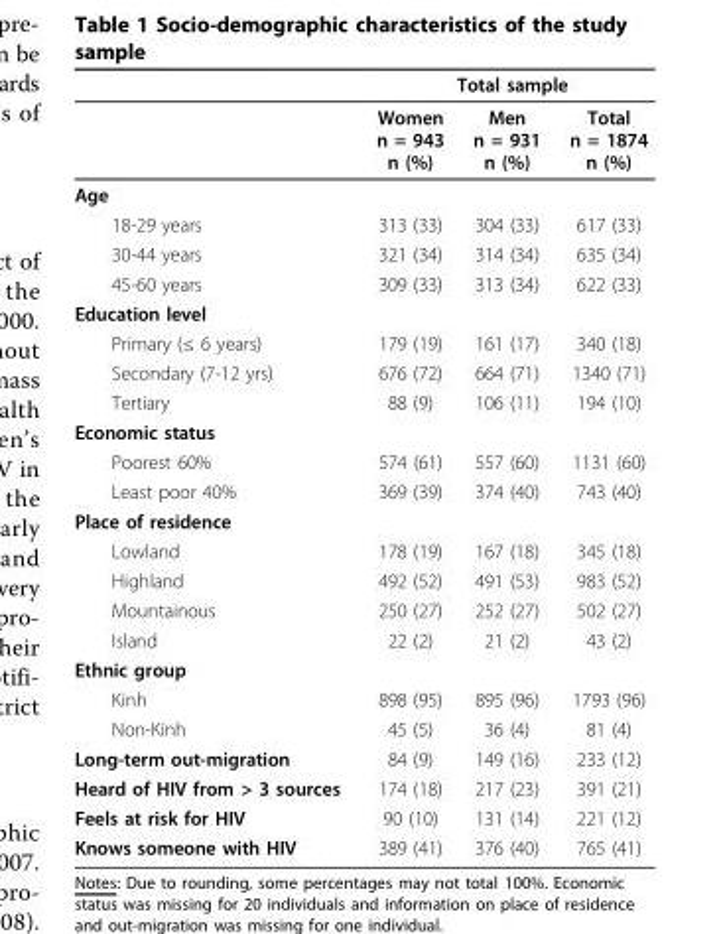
<table><thead><tr><td rowspan="2"></td><td colspan="3">Total sample</td></tr><tr><td>Women n = 943 n (%)</td><td>Men n = 931 n (%)</td><td>Total n = 1874 n (%)</td></tr></thead><tbody><tr><td colspan="4">Age</td></tr><tr><td>18-29 years</td><td>313 (33)</td><td>304 (33)</td><td>617 (33)</td></tr><tr><td>30-44 years</td><td>321 (34)</td><td>314 (34)</td><td>635 (34)</td></tr><tr><td>45-60 years</td><td>309 (33)</td><td>313 (34)</td><td>622 (33)</td></tr><tr><td colspan="4">Education level</td></tr><tr><td>Primary (≤ 6 years)</td><td>179 (19)</td><td>161 (17)</td><td>340 (18)</td></tr><tr><td>Secondary (7-12 yrs)</td><td>676 (72)</td><td>664 (71)</td><td>1340 (71)</td></tr><tr><td>Tertiary</td><td>88 (9)</td><td>106 (11)</td><td>194 (10)</td></tr><tr><td colspan="4">Economic status</td></tr><tr><td>Poorest 60%</td><td>574 (61)</td><td>557 (60)</td><td>1131 (60)</td></tr><tr><td>Least poor 40%</td><td>369 (39)</td><td>374 (40)</td><td>743 (40)</td></tr><tr><td colspan="4">Place of residence</td></tr><tr><td>Lowland</td><td>178 (19)</td><td>167 (18)</td><td>345 (18)</td></tr><tr><td>Highland</td><td>492 (52)</td><td>491 (53)</td><td>983 (52)</td></tr><tr><td>Mountainous</td><td>250 (27)</td><td>252 (27)</td><td>502 (27)</td></tr><tr><td>Island</td><td>22 (2)</td><td>21 (2)</td><td>43 (2)</td></tr><tr><td colspan="4">Ethnic group</td></tr><tr><td>Kinh</td><td>898 (95)</td><td>895 (96)</td><td>1793 (96)</td></tr><tr><td>Non-Kinh</td><td>45 (5)</td><td>36 (4)</td><td>81 (4)</td></tr><tr><td>Long-term out-migration</td><td>84 (9)</td><td>149 (16)</td><td>233 (12)</td></tr><tr><td>Heard of HIV from &gt; 3 sources</td><td>174 (18)</td><td>217 (23)</td><td>391 (21)</td></tr><tr><td>Feels at risk for HIV</td><td>90 (10)</td><td>131 (14)</td><td>221 (12)</td></tr><tr><td>Knows someone with HIV</td><td>389 (41)</td><td>376 (40)</td><td>765 (41)</td></tr></tbody></table>